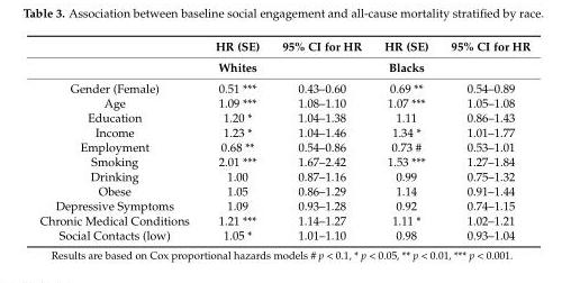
<table><thead><tr><td rowspan="2"></td><td rowspan="2">HR (SE) Whites</td><td rowspan="2">95% CI for HR</td><td rowspan="2">HR (SE) Blacks</td><td rowspan="2">95% CI for HR</td></tr><tr></tr></thead><tbody><tr><td>Gender (Female)</td><td>0.51 ***</td><td>0.43–0.60</td><td>0.69 **</td><td>0.54–0.89</td></tr><tr><td>Age</td><td>1.09 ***</td><td>1.08–1.10</td><td>1.07 ***</td><td>1.05–1.08</td></tr><tr><td>Education</td><td>1.20 *</td><td>1.04–1.38</td><td>1.11</td><td>0.86–1.43</td></tr><tr><td>Income</td><td>1.23 *</td><td>1.04–1.46</td><td>1.34 *</td><td>1.01–1.77</td></tr><tr><td>Employment</td><td>0.68 **</td><td>0.54–0.86</td><td>0.73 #</td><td>0.53–1.01</td></tr><tr><td>Smoking</td><td>2.01 ***</td><td>1.67–2.42</td><td>1.53 ***</td><td>1.27–1.84</td></tr><tr><td>Drinking</td><td>1.00</td><td>0.87–1.16</td><td>0.99</td><td>0.75–1.32</td></tr><tr><td>Obese</td><td>1.05</td><td>0.86–1.29</td><td>1.14</td><td>0.91–1.44</td></tr><tr><td>Depressive Symptoms</td><td>1.09</td><td>0.93–1.28</td><td>0.92</td><td>0.74–1.15</td></tr><tr><td>Chronic Medical Conditions</td><td>1.21 ***</td><td>1.14–1.27</td><td>1.11 *</td><td>1.02–1.21</td></tr><tr><td>Social Contacts (low)</td><td>1.05 *</td><td>1.01–1.10</td><td>0.98</td><td>0.93–1.04</td></tr></tbody></table>